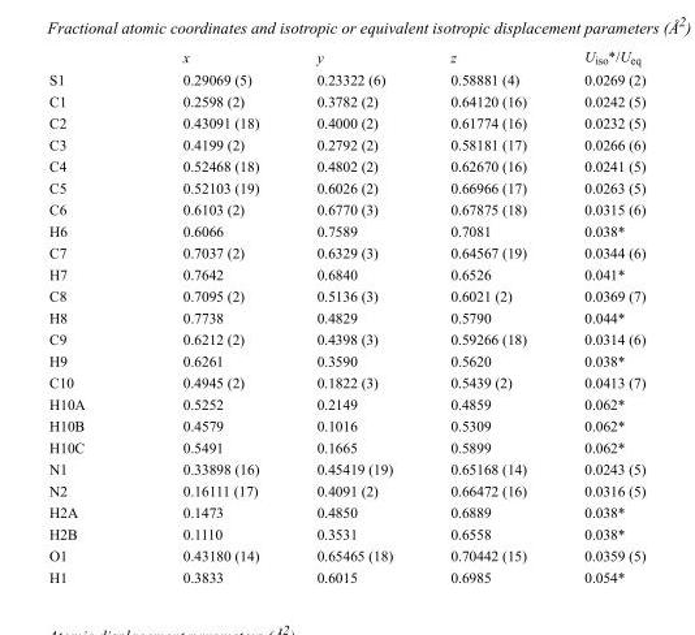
<table><thead><tr><td></td><td>x</td><td>y</td><td>z</td><td>U<sub>iso</sub>*/U<sub>eq</sub></td></tr></thead><tbody><tr><td>S1</td><td>0.29069 (5)</td><td>0.23322 (6)</td><td>0.58881 (4)</td><td>0.0269 (2)</td></tr><tr><td>C1</td><td>0.2598 (2)</td><td>0.3782 (2)</td><td>0.64120 (16)</td><td>0.0242 (5)</td></tr><tr><td>C2</td><td>0.43091 (18)</td><td>0.4000 (2)</td><td>0.61774 (16)</td><td>0.0232 (5)</td></tr><tr><td>C3</td><td>0.4199 (2)</td><td>0.2792 (2)</td><td>0.58181 (17)</td><td>0.0266 (6)</td></tr><tr><td>C4</td><td>0.52468 (18)</td><td>0.4802 (2)</td><td>0.62670 (16)</td><td>0.0241 (5)</td></tr><tr><td>C5</td><td>0.52103 (19)</td><td>0.6026 (2)</td><td>0.66966 (17)</td><td>0.0263 (5)</td></tr><tr><td>C6</td><td>0.6103 (2)</td><td>0.6770 (3)</td><td>0.67875 (18)</td><td>0.0315 (6)</td></tr><tr><td>H6</td><td>0.6066</td><td>0.7589</td><td>0.7081</td><td>0.038*</td></tr><tr><td>C7</td><td>0.7037 (2)</td><td>0.6329 (3)</td><td>0.64567 (19)</td><td>0.0344 (6)</td></tr><tr><td>H7</td><td>0.7642</td><td>0.6840</td><td>0.6526</td><td>0.041*</td></tr><tr><td>C8</td><td>0.7095 (2)</td><td>0.5136 (3)</td><td>0.6021 (2)</td><td>0.0369 (7)</td></tr><tr><td>H8</td><td>0.7738</td><td>0.4829</td><td>0.5790</td><td>0.044*</td></tr><tr><td>C9</td><td>0.6212 (2)</td><td>0.4398 (3)</td><td>0.59266 (18)</td><td>0.0314 (6)</td></tr><tr><td>H9</td><td>0.6261</td><td>0.3590</td><td>0.5620</td><td>0.038*</td></tr><tr><td>C10</td><td>0.4945 (2)</td><td>0.1822 (3)</td><td>0.5439 (2)</td><td>0.0413 (7)</td></tr><tr><td>H10A</td><td>0.5252</td><td>0.2149</td><td>0.4859</td><td>0.062*</td></tr><tr><td>H10B</td><td>0.4579</td><td>0.1016</td><td>0.5309</td><td>0.062*</td></tr><tr><td>H10C</td><td>0.5491</td><td>0.1665</td><td>0.5899</td><td>0.062*</td></tr><tr><td>N1</td><td>0.33898 (16)</td><td>0.45419 (19)</td><td>0.65168 (14)</td><td>0.0243 (5)</td></tr><tr><td>N2</td><td>0.16111 (17)</td><td>0.4091 (2)</td><td>0.66472 (16)</td><td>0.0316 (5)</td></tr><tr><td>H2A</td><td>0.1473</td><td>0.4850</td><td>0.6889</td><td>0.038*</td></tr><tr><td>H2B</td><td>0.1110</td><td>0.3531</td><td>0.6558</td><td>0.038*</td></tr><tr><td>O1</td><td>0.43180 (14)</td><td>0.65465 (18)</td><td>0.70442 (15)</td><td>0.0359 (5)</td></tr><tr><td>H1</td><td>0.3833</td><td>0.6015</td><td>0.6985</td><td>0.054*</td></tr></tbody></table>